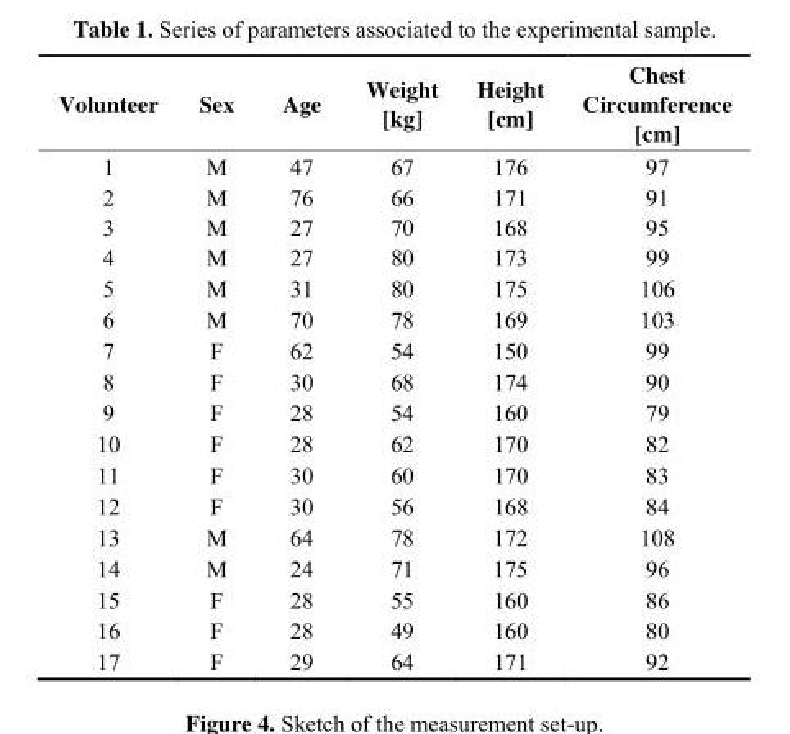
<table><thead><tr><td>Volunteer</td><td>Sex</td><td>Age</td><td>Weight [kg]</td><td>Height [cm]</td><td>Chest Circumference [cm]</td></tr></thead><tbody><tr><td>1</td><td>M</td><td>47</td><td>67</td><td>176</td><td>97</td></tr><tr><td>2</td><td>M</td><td>76</td><td>66</td><td>171</td><td>91</td></tr><tr><td>3</td><td>M</td><td>27</td><td>70</td><td>168</td><td>95</td></tr><tr><td>4</td><td>M</td><td>27</td><td>80</td><td>173</td><td>99</td></tr><tr><td>5</td><td>M</td><td>31</td><td>80</td><td>175</td><td>106</td></tr><tr><td>6</td><td>M</td><td>70</td><td>78</td><td>169</td><td>103</td></tr><tr><td>7</td><td>F</td><td>62</td><td>54</td><td>150</td><td>99</td></tr><tr><td>8</td><td>F</td><td>30</td><td>68</td><td>174</td><td>90</td></tr><tr><td>9</td><td>F</td><td>28</td><td>54</td><td>160</td><td>79</td></tr><tr><td>10</td><td>F</td><td>28</td><td>62</td><td>170</td><td>82</td></tr><tr><td>11</td><td>F</td><td>30</td><td>60</td><td>170</td><td>83</td></tr><tr><td>12</td><td>F</td><td>30</td><td>56</td><td>168</td><td>84</td></tr><tr><td>13</td><td>M</td><td>64</td><td>78</td><td>172</td><td>108</td></tr><tr><td>14</td><td>M</td><td>24</td><td>71</td><td>175</td><td>96</td></tr><tr><td>15</td><td>F</td><td>28</td><td>55</td><td>160</td><td>86</td></tr><tr><td>16</td><td>F</td><td>28</td><td>49</td><td>160</td><td>80</td></tr><tr><td>17</td><td>F</td><td>29</td><td>64</td><td>171</td><td>92</td></tr></tbody></table>